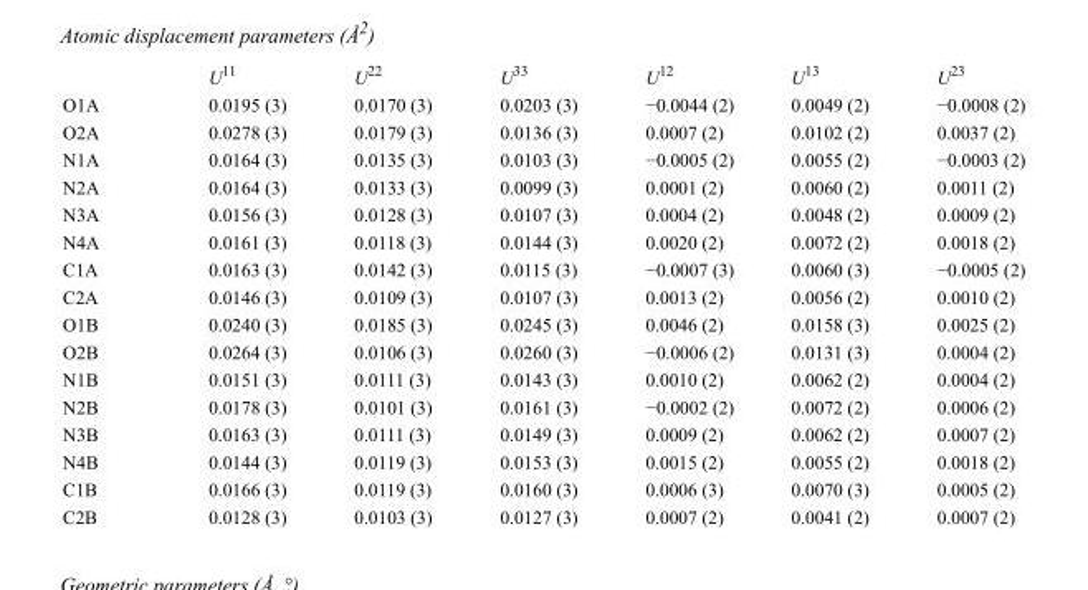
<table><thead><tr><td></td><td>U<sup>11</sup></td><td>U<sup>22</sup></td><td>U<sup>33</sup></td><td>U<sup>12</sup></td><td>U<sup>13</sup></td><td>U<sup>23</sup></td></tr></thead><tbody><tr><td>O1A</td><td>0.0195 (3)</td><td>0.0170 (3)</td><td>0.0203 (3)</td><td>−0.0044 (2)</td><td>0.0049 (2)</td><td>−0.0008 (2)</td></tr><tr><td>O2A</td><td>0.0278 (3)</td><td>0.0179 (3)</td><td>0.0136 (3)</td><td>0.0007 (2)</td><td>0.0102 (2)</td><td>0.0037 (2)</td></tr><tr><td>N1A</td><td>0.0164 (3)</td><td>0.0135 (3)</td><td>0.0103 (3)</td><td>−0.0005 (2)</td><td>0.0055 (2)</td><td>−0.0003 (2)</td></tr><tr><td>N2A</td><td>0.0164 (3)</td><td>0.0133 (3)</td><td>0.0099 (3)</td><td>0.0001 (2)</td><td>0.0060 (2)</td><td>0.0011 (2)</td></tr><tr><td>N3A</td><td>0.0156 (3)</td><td>0.0128 (3)</td><td>0.0107 (3)</td><td>0.0004 (2)</td><td>0.0048 (2)</td><td>0.0009 (2)</td></tr><tr><td>N4A</td><td>0.0161 (3)</td><td>0.0118 (3)</td><td>0.0144 (3)</td><td>0.0020 (2)</td><td>0.0072 (2)</td><td>0.0018 (2)</td></tr><tr><td>C1A</td><td>0.0163 (3)</td><td>0.0142 (3)</td><td>0.0115 (3)</td><td>−0.0007 (3)</td><td>0.0060 (3)</td><td>−0.0005 (2)</td></tr><tr><td>C2A</td><td>0.0146 (3)</td><td>0.0109 (3)</td><td>0.0107 (3)</td><td>0.0013 (2)</td><td>0.0056 (2)</td><td>0.0010 (2)</td></tr><tr><td>O1B</td><td>0.0240 (3)</td><td>0.0185 (3)</td><td>0.0245 (3)</td><td>0.0046 (2)</td><td>0.0158 (3)</td><td>0.0025 (2)</td></tr><tr><td>O2B</td><td>0.0264 (3)</td><td>0.0106 (3)</td><td>0.0260 (3)</td><td>−0.0006 (2)</td><td>0.0131 (3)</td><td>0.0004 (2)</td></tr><tr><td>N1B</td><td>0.0151 (3)</td><td>0.0111 (3)</td><td>0.0143 (3)</td><td>0.0010 (2)</td><td>0.0062 (2)</td><td>0.0004 (2)</td></tr><tr><td>N2B</td><td>0.0178 (3)</td><td>0.0101 (3)</td><td>0.0161 (3)</td><td>−0.0002 (2)</td><td>0.0072 (2)</td><td>0.0006 (2)</td></tr><tr><td>N3B</td><td>0.0163 (3)</td><td>0.0111 (3)</td><td>0.0149 (3)</td><td>0.0009 (2)</td><td>0.0062 (2)</td><td>0.0007 (2)</td></tr><tr><td>N4B</td><td>0.0144 (3)</td><td>0.0119 (3)</td><td>0.0153 (3)</td><td>0.0015 (2)</td><td>0.0055 (2)</td><td>0.0018 (2)</td></tr><tr><td>C1B</td><td>0.0166 (3)</td><td>0.0119 (3)</td><td>0.0160 (3)</td><td>0.0006 (3)</td><td>0.0070 (3)</td><td>0.0005 (2)</td></tr><tr><td>C2B</td><td>0.0128 (3)</td><td>0.0103 (3)</td><td>0.0127 (3)</td><td>0.0007 (2)</td><td>0.0041 (2)</td><td>0.0007 (2)</td></tr></tbody></table>